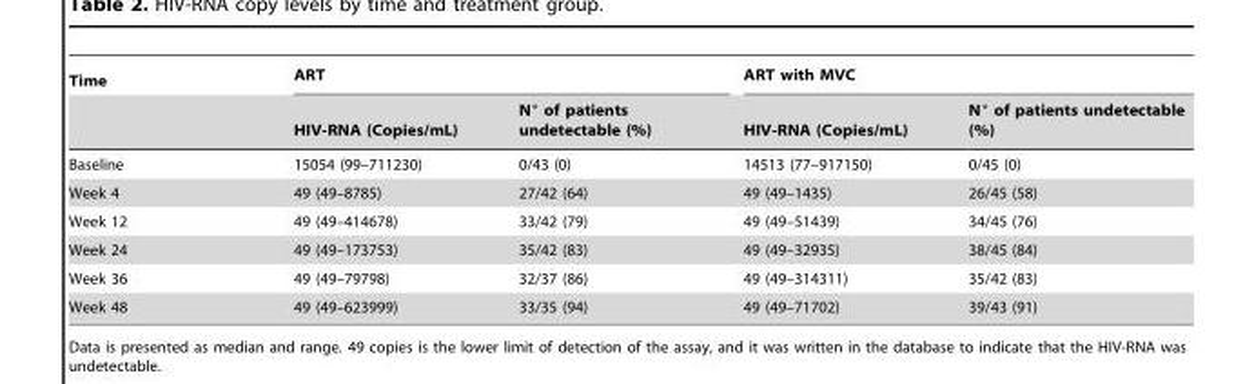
<table><thead><tr><td rowspan="2">Time</td><td colspan="2">ART</td><td colspan="2">ART with MVC</td></tr><tr><td>HIV-RNA (Copies/mL)</td><td>N° of patients undetectable (%)</td><td>HIV-RNA (Copies/mL)</td><td>N° of patients undetectable (%)</td></tr></thead><tbody><tr><td>Baseline</td><td>15054 (99–711230)</td><td>0/43 (0)</td><td>14513 (77–917150)</td><td>0/45 (0)</td></tr><tr><td>Week 4</td><td>49 (49–8785)</td><td>27/42 (64)</td><td>49 (49–1435)</td><td>26/45 (58)</td></tr><tr><td>Week 12</td><td>49 (49–414678)</td><td>33/42 (79)</td><td>49 (49–51439)</td><td>34/45 (76)</td></tr><tr><td>Week 24</td><td>49 (49–173753)</td><td>35/42 (83)</td><td>49 (49–32935)</td><td>38/45 (84)</td></tr><tr><td>Week 36</td><td>49 (49–79798)</td><td>32/37 (86)</td><td>49 (49–314311)</td><td>35/42 (83)</td></tr><tr><td>Week 48</td><td>49 (49–623999)</td><td>33/35 (94)</td><td>49 (49–71702)</td><td>39/43 (91)</td></tr></tbody></table>